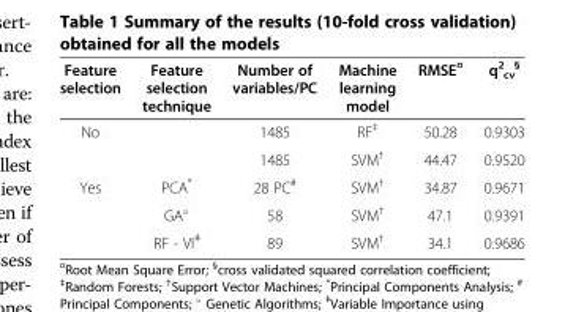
<table><thead><tr><td>Feature selection</td><td>Feature selection technique</td><td>Number of variables/PC</td><td>Machine learning model</td><td>RMSE<sup>¤</sup></td><td>q<sup>2</sup> <sub>cv</sub> <sup>§</sup></td></tr></thead><tbody><tr><td rowspan="2">No</td><td></td><td>1485</td><td>RF<sup>‡</sup></td><td>50.28</td><td>0.9303</td></tr><tr><td></td><td>1485</td><td>SVM<sup>†</sup></td><td>44.47</td><td>0.9520</td></tr><tr><td rowspan="3">Yes</td><td>PCA*</td><td>28 PC<sup>#</sup></td><td>SVM<sup>†</sup></td><td>34.87</td><td>0.9671</td></tr><tr><td>GA°</td><td>58</td><td>SVM<sup>†</sup></td><td>47.1</td><td>0.9391</td></tr><tr><td>RF - VI<sup>ǂ</sup></td><td>89</td><td>SVM<sup>†</sup></td><td>34.1</td><td>0.9686</td></tr></tbody></table>